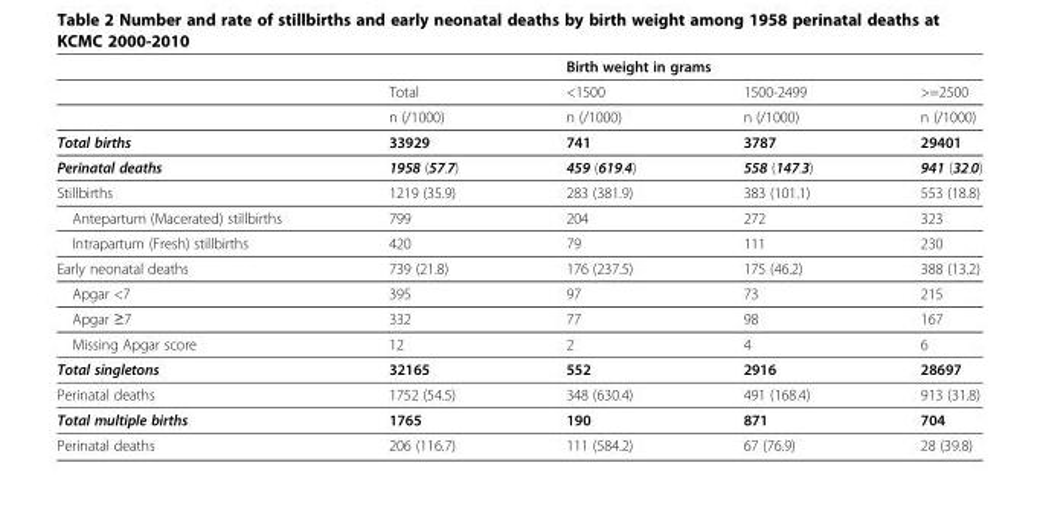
<table><thead><tr><td rowspan="2"></td><td rowspan="2">Total</td><td colspan="3">Birth weight in grams</td></tr><tr><td>&lt;1500</td><td>1500-2499</td><td>&gt;=2500</td></tr></thead><tbody><tr><td></td><td>n (/1000)</td><td>n (/1000)</td><td>n (/1000)</td><td>n (/1000)</td></tr><tr><td>Total births</td><td>33929</td><td>741</td><td>3787</td><td>29401</td></tr><tr><td>Perinatal deaths</td><td>1958 (57.7)</td><td>459 (619.4)</td><td>558 (147.3)</td><td>941 (32.0)</td></tr><tr><td>Stillbirths</td><td>1219 (35.9)</td><td>283 (381.9)</td><td>383 (101.1)</td><td>553 (18.8)</td></tr><tr><td>Antepartum (Macerated) stillbirths</td><td>799</td><td>204</td><td>272</td><td>323</td></tr><tr><td>Intrapartum (Fresh) stillbirths</td><td>420</td><td>79</td><td>111</td><td>230</td></tr><tr><td>Early neonatal deaths</td><td>739 (21.8)</td><td>176 (237.5)</td><td>175 (46.2)</td><td>388 (13.2)</td></tr><tr><td>Apgar &lt;7</td><td>395</td><td>97</td><td>73</td><td>215</td></tr><tr><td>Apgar ≥7</td><td>332</td><td>77</td><td>98</td><td>167</td></tr><tr><td>Missing Apgar score</td><td>12</td><td>2</td><td>4</td><td>6</td></tr><tr><td>Total singletons</td><td>32165</td><td>552</td><td>2916</td><td>28697</td></tr><tr><td>Perinatal deaths</td><td>1752 (54.5)</td><td>348 (630.4)</td><td>491 (168.4)</td><td>913 (31.8)</td></tr><tr><td>Total multiple births</td><td>1765</td><td>190</td><td>871</td><td>704</td></tr><tr><td>Perinatal deaths</td><td>206 (116.7)</td><td>111 (584.2)</td><td>67 (76.9)</td><td>28 (39.8)</td></tr></tbody></table>